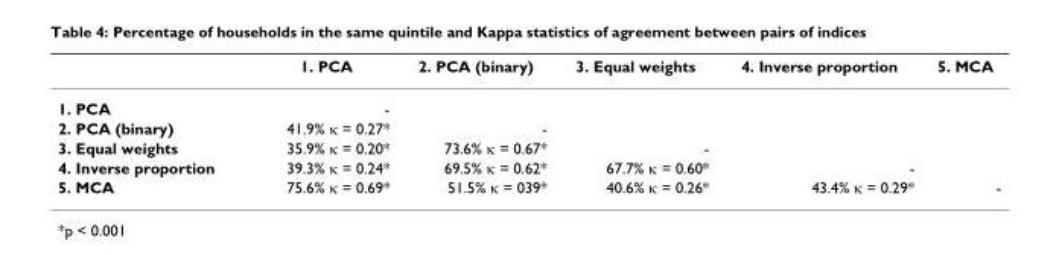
<table><thead><tr><td></td><td>1. PCA</td><td>2. PCA (binary)</td><td>3. Equal weights</td><td>4. Inverse proportion</td><td>5. MCA</td></tr></thead><tbody><tr><td>1. PCA</td><td>-</td><td></td><td></td><td></td><td></td></tr><tr><td>2. PCA (binary)</td><td>41.9% κ = 0.27*</td><td>-</td><td></td><td></td><td></td></tr><tr><td>3. Equal weights</td><td>35.9% κ = 0.20*</td><td>73.6% κ = 0.67*</td><td>-</td><td></td><td></td></tr><tr><td>4. Inverse proportion</td><td>39.3% κ = 0.24*</td><td>69.5% κ = 0.62*</td><td>67.7% κ = 0.60*</td><td>-</td><td></td></tr><tr><td>5. MCA</td><td>75.6% κ = 0.69*</td><td>51.5% κ = 039*</td><td>40.6% κ = 0.26*</td><td>43.4% κ = 0.29*</td><td>-</td></tr></tbody></table>